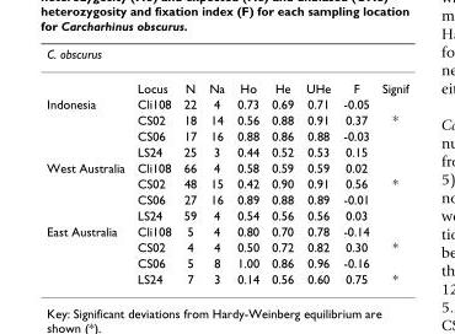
<table><thead><tr><td colspan="9">C. obscurus</td></tr><tr><td></td><td>Locus</td><td>N</td><td>Na</td><td>Ho</td><td>He</td><td>UHe</td><td>F</td><td>Signif</td></tr></thead><tbody><tr><td rowspan="4">Indonesia</td><td>Cli108</td><td>22</td><td>4</td><td>0.73</td><td>0.69</td><td>0.71</td><td>-0.05</td><td></td></tr><tr><td>CS02</td><td>18</td><td>14</td><td>0.56</td><td>0.88</td><td>0.91</td><td>0.37</td><td>*</td></tr><tr><td>CS06</td><td>17</td><td>16</td><td>0.88</td><td>0.86</td><td>0.88</td><td>-0.03</td><td></td></tr><tr><td>LS24</td><td>25</td><td>3</td><td>0.44</td><td>0.52</td><td>0.53</td><td>0.15</td><td></td></tr><tr><td rowspan="4">West Australia</td><td>Cli108</td><td>66</td><td>4</td><td>0.58</td><td>0.59</td><td>0.59</td><td>0.02</td><td></td></tr><tr><td>CS02</td><td>48</td><td>15</td><td>0.42</td><td>0.90</td><td>0.91</td><td>0.56</td><td>*</td></tr><tr><td>CS06</td><td>27</td><td>16</td><td>0.89</td><td>0.88</td><td>0.89</td><td>-0.01</td><td></td></tr><tr><td>LS24</td><td>59</td><td>4</td><td>0.54</td><td>0.56</td><td>0.56</td><td>0.03</td><td></td></tr><tr><td rowspan="4">East Australia</td><td>Cli108</td><td>5</td><td>4</td><td>0.80</td><td>0.70</td><td>0.78</td><td>-0.14</td><td></td></tr><tr><td>CS02</td><td>4</td><td>4</td><td>0.50</td><td>0.72</td><td>0.82</td><td>0.30</td><td>*</td></tr><tr><td>CS06</td><td>5</td><td>8</td><td>1.00</td><td>0.86</td><td>0.96</td><td>-0.16</td><td></td></tr><tr><td>LS24</td><td>7</td><td>3</td><td>0.14</td><td>0.56</td><td>0.60</td><td>0.75</td><td>*</td></tr></tbody></table>